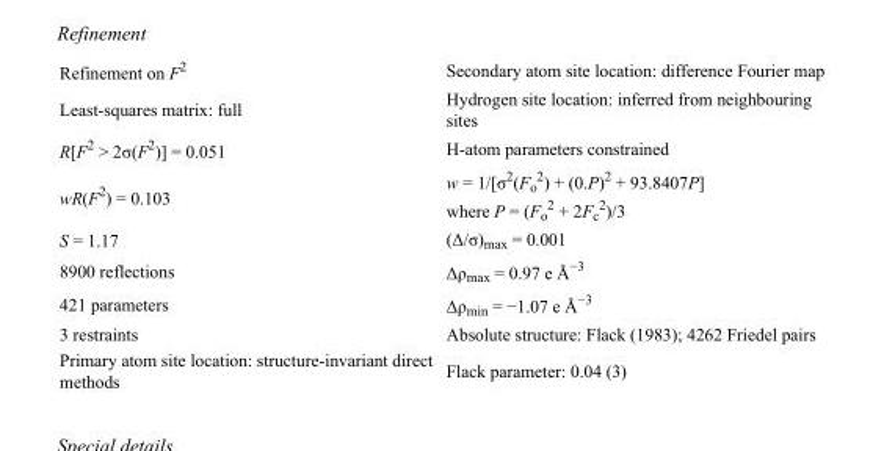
<table><tbody><tr><td>Refinement on F<sup>2</sup></td><td>Secondary atom site location: difference Fourier map</td></tr><tr><td>Least-squares matrix: full</td><td>Hydrogen site location: inferred from neighbouring sites</td></tr><tr><td>R[F<sup>2</sup> &gt; 2σ(F<sup>2</sup>)] = 0.051</td><td>H-atom parameters constrained</td></tr><tr><td>wR(F<sup>2</sup>) = 0.103</td><td>w = 1/[σ<sup>2</sup>(F<sub>o</sub> <sup>2</sup>) + (0.P)<sup>2</sup> + 93.8407P] where P = (F<sub>o</sub> <sup>2</sup> + 2F<sub>c</sub> <sup>2</sup>)/3</td></tr><tr><td>S = 1.17</td><td>(Δ/σ)<sub>max</sub> = 0.001</td></tr><tr><td>8900 reflections</td><td>Δρ<sub>max</sub> = 0.97 e Å<sup>−3</sup></td></tr><tr><td>421 parameters</td><td>Δρ<sub>min</sub> = −1.07 e Å<sup>−3</sup></td></tr><tr><td>3 restraints</td><td>Absolute structure: Flack (1983); 4262 Friedel pairs</td></tr><tr><td>Primary atom site location: structure-invariant direct methods</td><td>Flack parameter: 0.04 (3)</td></tr></tbody></table>